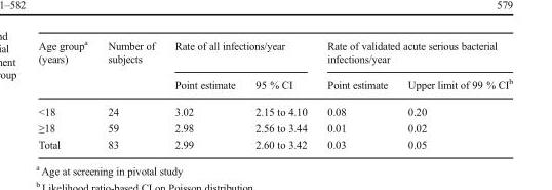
<table><thead><tr><td rowspan="2">Age group<sup>a</sup> (years)</td><td rowspan="2">Number of subjects</td><td colspan="2">Rate of all infections/year</td><td colspan="2">Rate of validated acute serious bacterial infections/year</td></tr><tr><td>Point estimate</td><td>95 % CI</td><td>Point estimate</td><td>Upper limit of 99 % CI<sup>b</sup></td></tr></thead><tbody><tr><td>&lt;18</td><td>24</td><td>3.02</td><td>2.15 to 4.10</td><td>0.08</td><td>0.20</td></tr><tr><td>≥18</td><td>59</td><td>2.98</td><td>2.56 to 3.44</td><td>0.01</td><td>0.02</td></tr><tr><td>Total</td><td>83</td><td>2.99</td><td>2.60 to 3.42</td><td>0.03</td><td>0.05</td></tr></tbody></table>